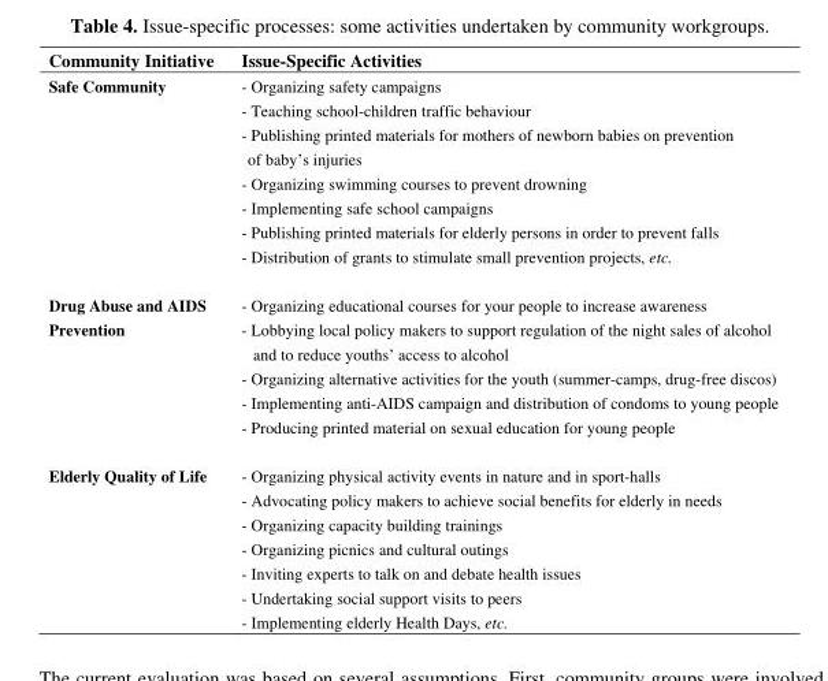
<table><thead><tr><td>Community Initiative</td><td>Issue-Specific Activities</td></tr></thead><tbody><tr><td>Safe Community</td><td>- Organizing safety campaigns - Teaching school-children traffic behaviour - Publishing printed materials for mothers of newborn babies on prevention of baby‘s injuries - Organizing swimming courses to prevent drowning - Implementing safe school campaigns - Publishing printed materials for elderly persons in order to prevent falls - Distribution of grants to stimulate small prevention projects, etc.</td></tr><tr><td>Drug Abuse and AIDS Prevention</td><td>- Organizing educational courses for your people to increase awareness - Lobbying local policy makers to support regulation of the night sales of alcohol and to reduce youths‘ access to alcohol - Organizing alternative activities for the youth (summer-camps, drug-free discos) - Implementing anti-AIDS campaign and distribution of condoms to young people - Producing printed material on sexual education for young people</td></tr><tr><td>Elderly Quality of Life</td><td>- Organizing physical activity events in nature and in sport-halls - Advocating policy makers to achieve social benefits for elderly in needs - Organizing capacity building trainings - Organizing picnics and cultural outings - Inviting experts to talk on and debate health issues - Undertaking social support visits to peers - Implementing elderly Health Days, etc.</td></tr></tbody></table>